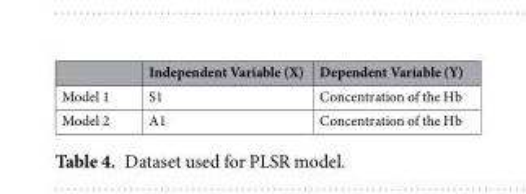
<table><thead><tr><td></td><td>Independent Variable (X)</td><td>Dependent Variable (Y)</td></tr></thead><tbody><tr><td>Model 1</td><td>S1</td><td>Concentration of the Hb</td></tr><tr><td>Model 2</td><td>A1</td><td>Concentration of the Hb</td></tr></tbody></table>